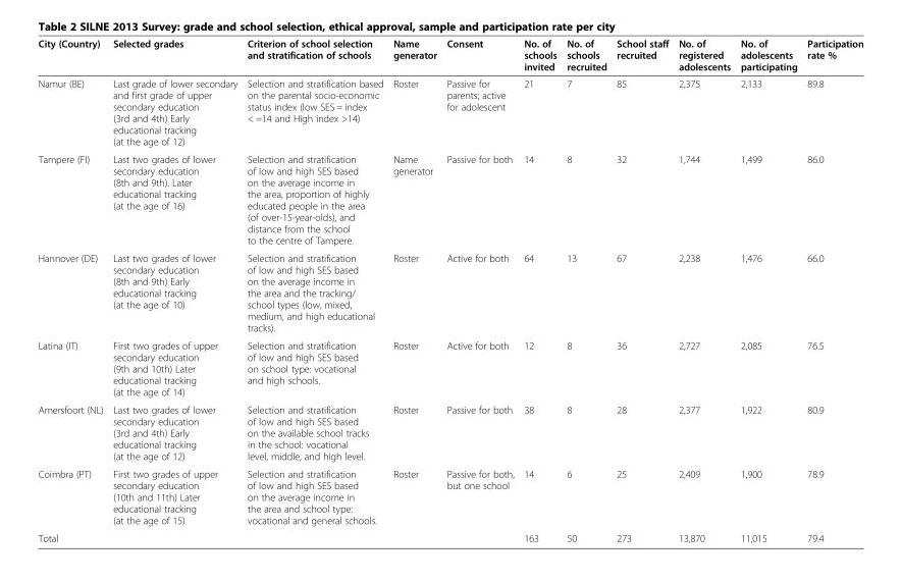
<table><thead><tr><td>City (Country)</td><td>Selected grades</td><td>Criterion of school selection and stratification of schools</td><td>Name generator</td><td>Consent</td><td>No. of schools invited</td><td>No. of schools recruited</td><td>School staff recruited</td><td>No. of registered adolescents</td><td>No. of adolescents participating</td><td>Participation rate %</td></tr></thead><tbody><tr><td>Namur (BE)</td><td>Last grade of lower secondary and first grade of upper secondary education (3rd and 4th) Early educational tracking (at the age of 12)</td><td>Selection and stratification based on the parental socio-economic status index (low SES = index &lt; =14 and High index &gt;14)</td><td>Roster</td><td>Passive for parents; active for adolescent</td><td>21</td><td>7</td><td>85</td><td>2,375</td><td>2,133</td><td>89.8</td></tr><tr><td>Tampere (FI)</td><td>Last two grades of lower secondary education (8th and 9th). Later educational tracking (at the age of 16)</td><td>Selection and stratification of low and high SES based on the average income in the area, proportion of highly educated people in the area (of over-15-year-olds), and distance from the school to the centre of Tampere.</td><td>Name generator</td><td>Passive for both</td><td>14</td><td>8</td><td>32</td><td>1,744</td><td>1,499</td><td>86.0</td></tr><tr><td>Hannover (DE)</td><td>Last two grades of lower secondary education (8th and 9th) Early educational tracking (at the age of 10)</td><td>Selection and stratification of low and high SES based on the average income in the area and the tracking/ school types (low, mixed, medium, and high educational tracks).</td><td>Roster</td><td>Active for both</td><td>64</td><td>13</td><td>67</td><td>2,238</td><td>1,476</td><td>66.0</td></tr><tr><td>Latina (IT)</td><td>First two grades of upper secondary education (9th and 10th) Later educational tracking (at the age of 14)</td><td>Selection and stratification of low and high SES based on school type: vocational and high schools.</td><td>Roster</td><td>Active for both</td><td>12</td><td>8</td><td>36</td><td>2,727</td><td>2,085</td><td>76.5</td></tr><tr><td>Amersfoort (NL)</td><td>Last two grades of lower secondary education (3rd and 4th) Early educational tracking (at the age of 12)</td><td>Selection and stratification of low and high SES based on the available school tracks in the school: vocational level, middle, and high level.</td><td>Roster</td><td>Passive for both</td><td>38</td><td>8</td><td>28</td><td>2,377</td><td>1,922</td><td>80.9</td></tr><tr><td>Coimbra (PT)</td><td>First two grades of upper secondary education (10th and 11th) Later educational tracking (at the age of 15)</td><td>Selection and stratification of low and high SES based on the average income in the area and school type: vocational and general schools.</td><td>Roster</td><td>Passive for both, but one school</td><td>14</td><td>6</td><td>25</td><td>2,409</td><td>1,900</td><td>78.9</td></tr><tr><td>Total</td><td></td><td></td><td></td><td></td><td>163</td><td>50</td><td>273</td><td>13,870</td><td>11,015</td><td>79.4</td></tr></tbody></table>